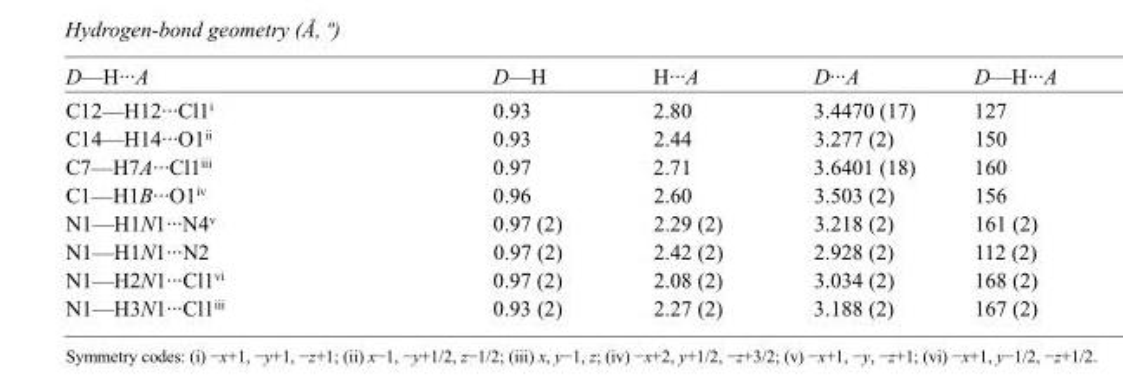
<table><tbody><tr><td>D—H···A</td><td>D—H</td><td>H···A</td><td>D···A</td><td>D—H···A</td></tr><tr><td>C12—H12···Cl1<sup>i</sup></td><td>0.93</td><td>2.80</td><td>3.4470 (17)</td><td>127</td></tr><tr><td>C14—H14···O1<sup>ii</sup></td><td>0.93</td><td>2.44</td><td>3.277 (2)</td><td>150</td></tr><tr><td>C7—H7A···Cl1<sup>iii</sup></td><td>0.97</td><td>2.71</td><td>3.6401 (18)</td><td>160</td></tr><tr><td>C1—H1B···O1<sup>iv</sup></td><td>0.96</td><td>2.60</td><td>3.503 (2)</td><td>156</td></tr><tr><td>N1—H1N1···N4<sup>v</sup></td><td>0.97 (2)</td><td>2.29 (2)</td><td>3.218 (2)</td><td>161 (2)</td></tr><tr><td>N1—H1N1···N2</td><td>0.97 (2)</td><td>2.42 (2)</td><td>2.928 (2)</td><td>112 (2)</td></tr><tr><td>N1—H2N1···Cl1<sup>vi</sup></td><td>0.97 (2)</td><td>2.08 (2)</td><td>3.034 (2)</td><td>168 (2)</td></tr><tr><td>N1—H3N1···Cl1<sup>iii</sup></td><td>0.93 (2)</td><td>2.27 (2)</td><td>3.188 (2)</td><td>167 (2)</td></tr></tbody></table>